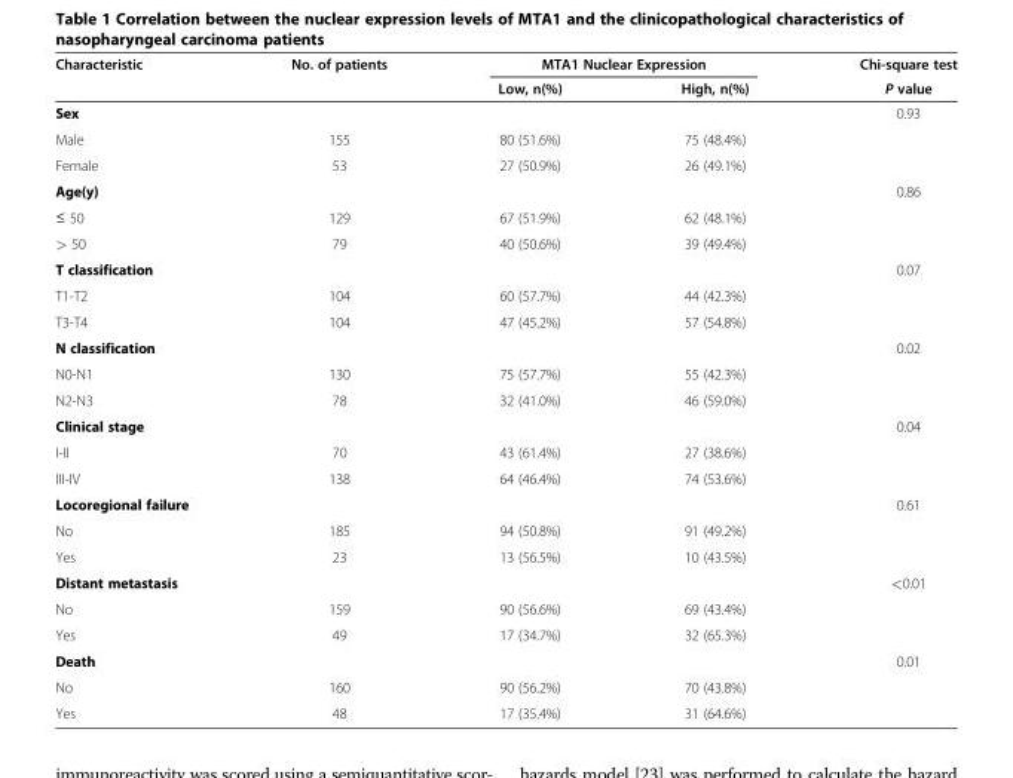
<table><thead><tr><td rowspan="2">Characteristic</td><td rowspan="2">No. of patients</td><td colspan="2">MTA1 Nuclear Expression</td><td rowspan="2">Chi-square test P value</td></tr><tr><td>Low, n(%)</td><td>High, n(%)</td></tr></thead><tbody><tr><td>Sex</td><td></td><td></td><td></td><td>0.93</td></tr><tr><td>Male</td><td>155</td><td>80 (51.6%)</td><td>75 (48.4%)</td><td></td></tr><tr><td>Female</td><td>53</td><td>27 (50.9%)</td><td>26 (49.1%)</td><td></td></tr><tr><td>Age(y)</td><td></td><td></td><td></td><td>0.86</td></tr><tr><td>≤ 50</td><td>129</td><td>67 (51.9%)</td><td>62 (48.1%)</td><td></td></tr><tr><td>&gt; 50</td><td>79</td><td>40 (50.6%)</td><td>39 (49.4%)</td><td></td></tr><tr><td>T classification</td><td></td><td></td><td></td><td>0.07</td></tr><tr><td>T1-T2</td><td>104</td><td>60 (57.7%)</td><td>44 (42.3%)</td><td></td></tr><tr><td>T3-T4</td><td>104</td><td>47 (45.2%)</td><td>57 (54.8%)</td><td></td></tr><tr><td>N classification</td><td></td><td></td><td></td><td>0.02</td></tr><tr><td>N0-N1</td><td>130</td><td>75 (57.7%)</td><td>55 (42.3%)</td><td></td></tr><tr><td>N2-N3</td><td>78</td><td>32 (41.0%)</td><td>46 (59.0%)</td><td></td></tr><tr><td>Clinical stage</td><td></td><td></td><td></td><td>0.04</td></tr><tr><td>I-II</td><td>70</td><td>43 (61.4%)</td><td>27 (38.6%)</td><td></td></tr><tr><td>III-IV</td><td>138</td><td>64 (46.4%)</td><td>74 (53.6%)</td><td></td></tr><tr><td>Locoregional failure</td><td></td><td></td><td></td><td>0.61</td></tr><tr><td>No</td><td>185</td><td>94 (50.8%)</td><td>91 (49.2%)</td><td></td></tr><tr><td>Yes</td><td>23</td><td>13 (56.5%)</td><td>10 (43.5%)</td><td></td></tr><tr><td>Distant metastasis</td><td></td><td></td><td></td><td>&lt;0.01</td></tr><tr><td>No</td><td>159</td><td>90 (56.6%)</td><td>69 (43.4%)</td><td></td></tr><tr><td>Yes</td><td>49</td><td>17 (34.7%)</td><td>32 (65.3%)</td><td></td></tr><tr><td>Death</td><td></td><td></td><td></td><td>0.01</td></tr><tr><td>No</td><td>160</td><td>90 (56.2%)</td><td>70 (43.8%)</td><td></td></tr><tr><td>Yes</td><td>48</td><td>17 (35.4%)</td><td>31 (64.6%)</td><td></td></tr></tbody></table>